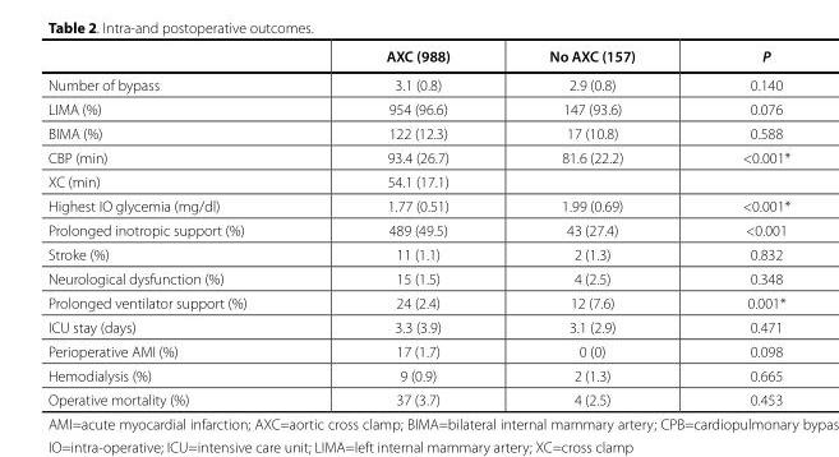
<table><thead><tr><td></td><td>AXC (988)</td><td>No AXC (157)</td><td>P</td></tr></thead><tbody><tr><td>Number of bypass</td><td>3.1 (0.8)</td><td>2.9 (0.8)</td><td>0.140</td></tr><tr><td>LIMA (%)</td><td>954 (96.6)</td><td>147 (93.6)</td><td>0.076</td></tr><tr><td>BIMA (%)</td><td>122 (12.3)</td><td>17 (10.8)</td><td>0.588</td></tr><tr><td>CBP (min)</td><td>93.4 (26.7)</td><td>81.6 (22.2)</td><td>&lt;0.001*</td></tr><tr><td>XC (min)</td><td>54.1 (17.1)</td><td></td><td></td></tr><tr><td>Highest IO glycemia (mg/dl)</td><td>1.77 (0.51)</td><td>1.99 (0.69)</td><td>&lt;0.001*</td></tr><tr><td>Prolonged inotropic support (%)</td><td>489 (49.5)</td><td>43 (27.4)</td><td>&lt;0.001</td></tr><tr><td>Stroke (%)</td><td>11 (1.1)</td><td>2 (1.3)</td><td>0.832</td></tr><tr><td>Neurological dysfunction (%)</td><td>15 (1.5)</td><td>4 (2.5)</td><td>0.348</td></tr><tr><td>Prolonged ventilator support (%)</td><td>24 (2.4)</td><td>12 (7.6)</td><td>0.001*</td></tr><tr><td>ICU stay (days)</td><td>3.3 (3.9)</td><td>3.1 (2.9)</td><td>0.471</td></tr><tr><td>Perioperative AMI (%)</td><td>17 (1.7)</td><td>0 (0)</td><td>0.098</td></tr><tr><td>Hemodialysis (%)</td><td>9 (0.9)</td><td>2 (1.3)</td><td>0.665</td></tr><tr><td>Operative mortality (%)</td><td>37 (3.7)</td><td>4 (2.5)</td><td>0.453</td></tr></tbody></table>